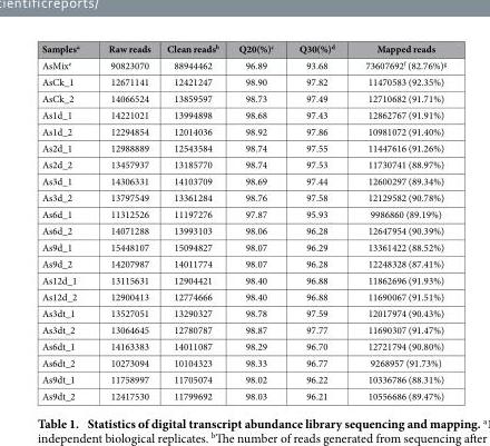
<table><thead><tr><td>Samples<sup>a</sup></td><td>Raw reads</td><td>Clean reads<sup>b</sup></td><td>Q20(%)<sup>c</sup></td><td>Q30(%)<sup>d</sup></td><td>Mapped reads</td></tr></thead><tbody><tr><td>AsMix<sup>e</sup></td><td>90823070</td><td>88944462</td><td>96.89</td><td>93.68</td><td>73607692<sup>f</sup> (82.76%)<sup>g</sup></td></tr><tr><td>AsCk_1</td><td>12671141</td><td>12421247</td><td>98.90</td><td>97.82</td><td>11470583 (92.35%)</td></tr><tr><td>AsCk_2</td><td>14066524</td><td>13859597</td><td>98.73</td><td>97.49</td><td>12710682 (91.71%)</td></tr><tr><td>As1d_1</td><td>14221021</td><td>13994898</td><td>98.68</td><td>97.43</td><td>12862767 (91.91%)</td></tr><tr><td>As1d_2</td><td>12294854</td><td>12014036</td><td>98.92</td><td>97.86</td><td>10981072 (91.40%)</td></tr><tr><td>As2d_1</td><td>12988889</td><td>12543584</td><td>98.74</td><td>97.55</td><td>11447616 (91.26%)</td></tr><tr><td>As2d_2</td><td>13457937</td><td>13185770</td><td>98.74</td><td>97.53</td><td>11730741 (88.97%)</td></tr><tr><td>As3d_1</td><td>14306331</td><td>14103709</td><td>98.69</td><td>97.44</td><td>12600297 (89.34%)</td></tr><tr><td>As3d_2</td><td>13797549</td><td>13361284</td><td>98.76</td><td>97.58</td><td>12129582 (90.78%)</td></tr><tr><td>As6d_1</td><td>11312526</td><td>11197276</td><td>97.87</td><td>95.93</td><td>9986860 (89.19%)</td></tr><tr><td>As6d_2</td><td>14071288</td><td>13993103</td><td>98.06</td><td>96.28</td><td>12647954 (90.39%)</td></tr><tr><td>As9d_1</td><td>15448107</td><td>15094827</td><td>98.07</td><td>96.29</td><td>13361422 (88.52%)</td></tr><tr><td>As9d_2</td><td>14207987</td><td>14011774</td><td>98.07</td><td>96.28</td><td>12248328 (87.41%)</td></tr><tr><td>As12d_1</td><td>13115631</td><td>12904421</td><td>98.40</td><td>96.88</td><td>11862696 (91.93%)</td></tr><tr><td>As12d_2</td><td>12900413</td><td>12774666</td><td>98.40</td><td>96.88</td><td>11690067 (91.51%)</td></tr><tr><td>As3dt_1</td><td>13527051</td><td>13290327</td><td>98.78</td><td>97.59</td><td>12017974 (90.43%)</td></tr><tr><td>As3dt_2</td><td>13064645</td><td>12780787</td><td>98.87</td><td>97.77</td><td>11690307 (91.47%)</td></tr><tr><td>As6dt_1</td><td>14163383</td><td>14011087</td><td>98.29</td><td>96.70</td><td>12721794 (90.80%)</td></tr><tr><td>As6dt_2</td><td>10273094</td><td>10104323</td><td>98.33</td><td>96.77</td><td>9268957 (91.73%)</td></tr><tr><td>As9dt_1</td><td>11758997</td><td>11705074</td><td>98.02</td><td>96.22</td><td>10336786 (88.31%)</td></tr><tr><td>As9dt_2</td><td>12417530</td><td>11799692</td><td>98.03</td><td>96.21</td><td>10556686 (89.47%)</td></tr></tbody></table>